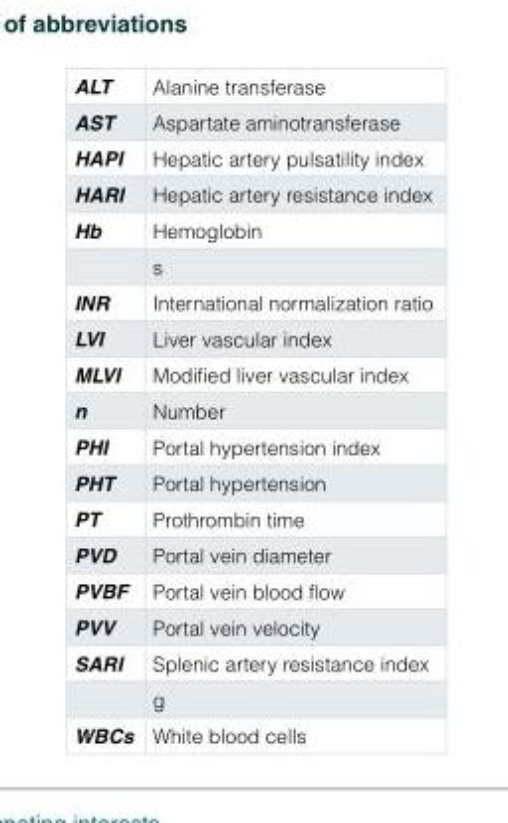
<table><tbody><tr><td>ALT</td><td>Alanine transferase</td></tr><tr><td>AST</td><td>Aspartate aminotransferase</td></tr><tr><td>HAPI</td><td>Hepatic artery pulsatility index</td></tr><tr><td>HARI</td><td>Hepatic artery resistance index</td></tr><tr><td rowspan="2">Hb</td><td>Hemoglobin</td></tr><tr><td>s</td></tr><tr><td>INR</td><td>International normalization ratio</td></tr><tr><td>LVI</td><td>Liver vascular index</td></tr><tr><td>MLVI</td><td>Modified liver vascular index</td></tr><tr><td>n</td><td>Number</td></tr><tr><td>PHI</td><td>Portal hypertension index</td></tr><tr><td>PHT</td><td>Portal hypertension</td></tr><tr><td>PT</td><td>Prothrombin time</td></tr><tr><td>PVD</td><td>Portal vein diameter</td></tr><tr><td>PVBF</td><td>Portal vein blood flow</td></tr><tr><td>PVV</td><td>Portal vein velocity</td></tr><tr><td rowspan="2">SARI</td><td>Splenic artery resistance index</td></tr><tr><td>g</td></tr><tr><td>WBCs</td><td>White blood cells</td></tr></tbody></table>